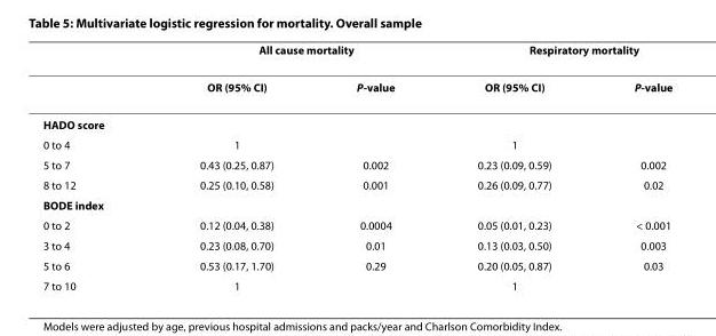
<table><thead><tr><td rowspan="2"></td><td colspan="2">All cause mortality</td><td colspan="2">Respiratory mortality</td></tr><tr><td>OR (95% CI)</td><td>P-value</td><td>OR (95% CI)</td><td>P-value</td></tr></thead><tbody><tr><td colspan="5">HADO score</td></tr><tr><td>0 to 4</td><td>1</td><td></td><td>1</td><td></td></tr><tr><td>5 to 7</td><td>0.43 (0.25, 0.87)</td><td>0.002</td><td>0.23 (0.09, 0.59)</td><td>0.002</td></tr><tr><td>8 to 12</td><td>0.25 (0.10, 0.58)</td><td>0.001</td><td>0.26 (0.09, 0.77)</td><td>0.02</td></tr><tr><td colspan="5">BODE index</td></tr><tr><td>0 to 2</td><td>0.12 (0.04, 0.38)</td><td>0.0004</td><td>0.05 (0.01, 0.23)</td><td>&lt; 0.001</td></tr><tr><td>3 to 4</td><td>0.23 (0.08, 0.70)</td><td>0.01</td><td>0.13 (0.03, 0.50)</td><td>0.003</td></tr><tr><td>5 to 6</td><td>0.53 (0.17, 1.70)</td><td>0.29</td><td>0.20 (0.05, 0.87)</td><td>0.03</td></tr><tr><td>7 to 10</td><td>1</td><td></td><td>1</td><td></td></tr></tbody></table>